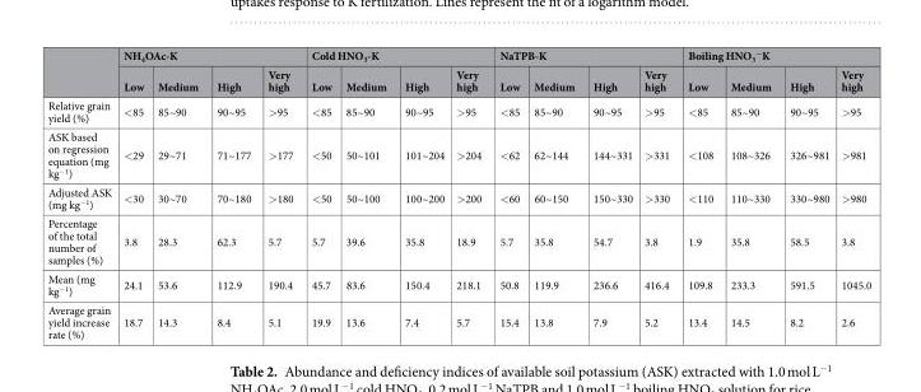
<table><thead><tr><td rowspan="2"></td><td colspan="4">NH<sub>4</sub>OAc-K</td><td colspan="4">Cold HNO<sub>3</sub>-K</td><td colspan="4">NaTPB-K</td><td colspan="4">Boiling HNO<sub>3</sub> <sup>−</sup>K</td></tr><tr><td>Low</td><td>Medium</td><td>High</td><td>Very high</td><td>Low</td><td>Medium</td><td>High</td><td>Very high</td><td>Low</td><td>Medium</td><td>High</td><td>Very high</td><td>Low</td><td>Medium</td><td>High</td><td>Very high</td></tr></thead><tbody><tr><td>Relative grain yield (%)</td><td>&lt;85</td><td>85~90</td><td>90~95</td><td>&gt;95</td><td>&lt;85</td><td>85~90</td><td>90~95</td><td>&gt;95</td><td>&lt;85</td><td>85~90</td><td>90~95</td><td>&gt;95</td><td>&lt;85</td><td>85~90</td><td>90~95</td><td>&gt;95</td></tr><tr><td>ASK based on regression equation (mg kg<sup>−1</sup>)</td><td>&lt;29</td><td>29~71</td><td>71~177</td><td>&gt;177</td><td>&lt;50</td><td>50~101</td><td>101~204</td><td>&gt;204</td><td>&lt;62</td><td>62~144</td><td>144~331</td><td>&gt;331</td><td>&lt;108</td><td>108~326</td><td>326~981</td><td>&gt;981</td></tr><tr><td>Adjusted ASK (mg kg<sup>−1</sup>)</td><td>&lt;30</td><td>30~70</td><td>70~180</td><td>&gt;180</td><td>&lt;50</td><td>50~100</td><td>100~200</td><td>&gt;200</td><td>&lt;60</td><td>60~150</td><td>150~330</td><td>&gt;330</td><td>&lt;110</td><td>110~330</td><td>330~980</td><td>&gt;980</td></tr><tr><td>Percentage of the total number of samples (%)</td><td>3.8</td><td>28.3</td><td>62.3</td><td>5.7</td><td>5.7</td><td>39.6</td><td>35.8</td><td>18.9</td><td>5.7</td><td>35.8</td><td>54.7</td><td>3.8</td><td>1.9</td><td>35.8</td><td>58.5</td><td>3.8</td></tr><tr><td>Mean (mg kg<sup>−1</sup>)</td><td>24.1</td><td>53.6</td><td>112.9</td><td>190.4</td><td>45.7</td><td>83.6</td><td>150.4</td><td>218.1</td><td>50.8</td><td>119.9</td><td>236.6</td><td>416.4</td><td>109.8</td><td>233.3</td><td>591.5</td><td>1045.0</td></tr><tr><td>Average grain yield increase rate (%)</td><td>18.7</td><td>14.3</td><td>8.4</td><td>5.1</td><td>19.9</td><td>13.6</td><td>7.4</td><td>5.7</td><td>15.4</td><td>13.8</td><td>7.9</td><td>5.2</td><td>13.4</td><td>14.5</td><td>8.2</td><td>2.6</td></tr></tbody></table>